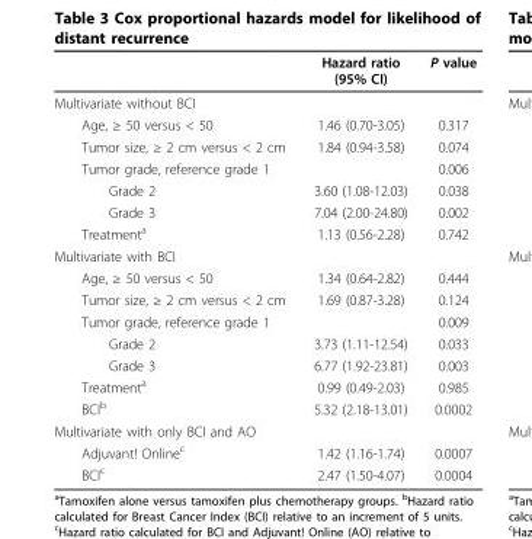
<table><thead><tr><td></td><td>Hazard ratio (95% CI)</td><td>P value</td></tr></thead><tbody><tr><td colspan="3">Multivariate without BCI</td></tr><tr><td>Age, ≥ 50 versus &lt; 50</td><td>1.46 (0.70-3.05)</td><td>0.317</td></tr><tr><td>Tumor size, ≥ 2 cm versus &lt; 2 cm</td><td>1.84 (0.94-3.58)</td><td>0.074</td></tr><tr><td>Tumor grade, reference grade 1</td><td></td><td>0.006</td></tr><tr><td>Grade 2</td><td>3.60 (1.08-12.03)</td><td>0.038</td></tr><tr><td>Grade 3</td><td>7.04 (2.00-24.80)</td><td>0.002</td></tr><tr><td>Treatment<sup>a</sup></td><td>1.13 (0.56-2.28)</td><td>0.742</td></tr><tr><td colspan="3">Multivariate with BCI</td></tr><tr><td>Age, ≥ 50 versus &lt; 50</td><td>1.34 (0.64-2.82)</td><td>0.444</td></tr><tr><td>Tumor size, ≥ 2 cm versus &lt; 2 cm</td><td>1.69 (0.87-3.28)</td><td>0.124</td></tr><tr><td>Tumor grade, reference grade 1</td><td></td><td>0.009</td></tr><tr><td>Grade 2</td><td>3.73 (1.11-12.54)</td><td>0.033</td></tr><tr><td>Grade 3</td><td>6.77 (1.92-23.81)</td><td>0.003</td></tr><tr><td>Treatment<sup>a</sup></td><td>0.99 (0.49-2.03)</td><td>0.985</td></tr><tr><td>BCI<sup>b</sup></td><td>5.32 (2.18-13.01)</td><td>0.0002</td></tr><tr><td colspan="3">Multivariate with only BCI and AO</td></tr><tr><td>Adjuvant! Online<sup>c</sup></td><td>1.42 (1.16-1.74)</td><td>0.0007</td></tr><tr><td>BCI<sup>c</sup></td><td>2.47 (1.50-4.07)</td><td>0.0004</td></tr></tbody></table>